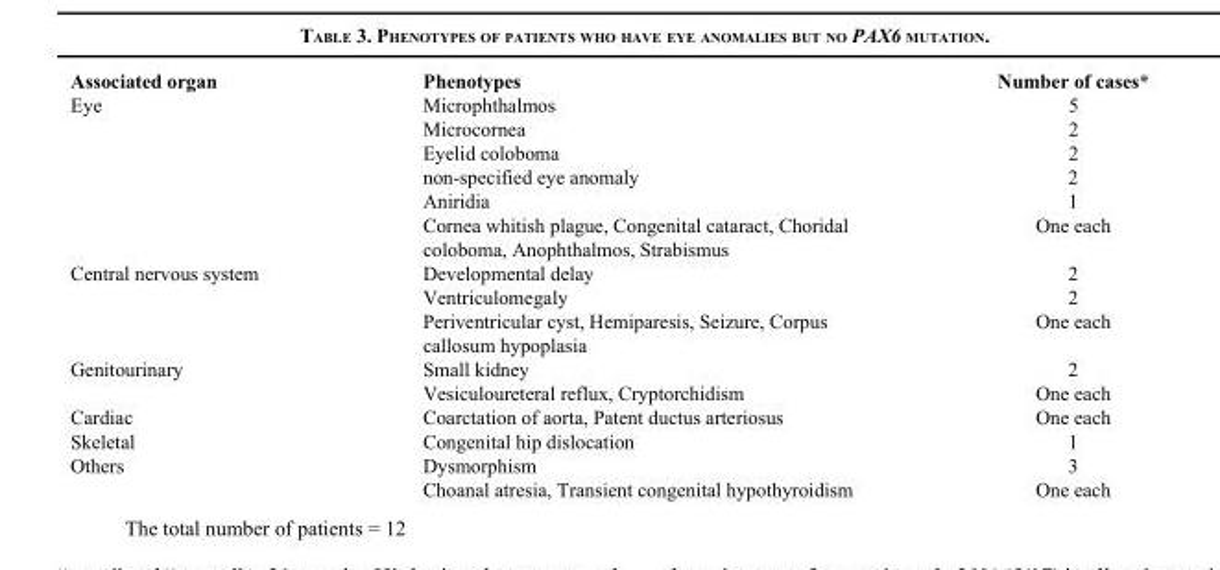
<table><thead><tr><td>Associated organ</td><td>Phenotypes</td><td>Number of cases*</td></tr></thead><tbody><tr><td rowspan="6">Eye</td><td>Microphthalmos</td><td>5</td></tr><tr><td>Microcornea</td><td>2</td></tr><tr><td>Eyelid coloboma</td><td>2</td></tr><tr><td>non-specified eye anomaly</td><td>2</td></tr><tr><td>Aniridia</td><td>1</td></tr><tr><td>Cornea whitish plague, Congenital cataract, Choridal coloboma, Anophthalmos, Strabismus</td><td>One each</td></tr><tr><td rowspan="3">Central nervous system</td><td>Developmental delay</td><td>2</td></tr><tr><td>Ventriculomegaly</td><td>2</td></tr><tr><td>Periventricular cyst, Hemiparesis, Seizure, Corpus callosum hypoplasia</td><td>One each</td></tr><tr><td rowspan="2">Genitourinary</td><td>Small kidney</td><td>2</td></tr><tr><td>Vesiculoureteral reflux, Cryptorchidism</td><td>One each</td></tr><tr><td>Cardiac</td><td>Coarctation of aorta, Patent ductus arteriosus</td><td>One each</td></tr><tr><td>Skeletal</td><td>Congenital hip dislocation</td><td>1</td></tr><tr><td rowspan="2">Others</td><td>Dysmorphism</td><td>3</td></tr><tr><td>Choanal atresia, Transient congenital hypothyroidism</td><td>One each</td></tr></tbody></table>